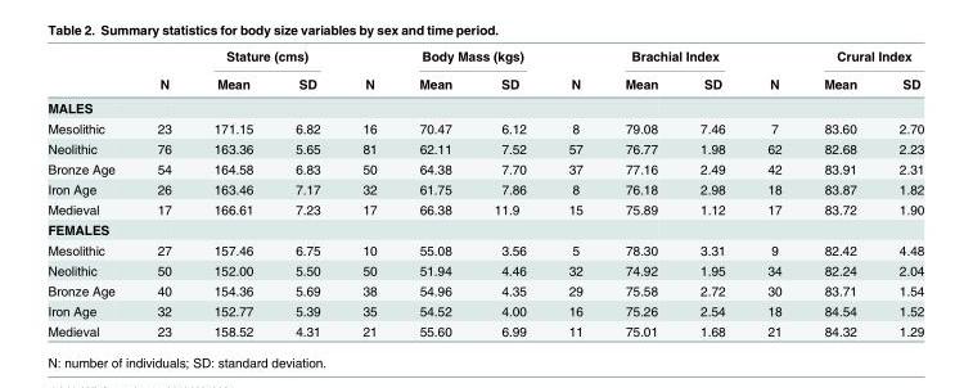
<table><thead><tr><td rowspan="2"></td><td rowspan="2">N</td><td colspan="2">Stature (cms)</td><td rowspan="2">N</td><td colspan="2">Body Mass (kgs)</td><td rowspan="2">N</td><td colspan="2">Brachial Index</td><td rowspan="2">N</td><td colspan="2">Crural Index</td></tr><tr><td>Mean</td><td>SD</td><td>Mean</td><td>SD</td><td>Mean</td><td>SD</td><td>Mean</td><td>SD</td></tr></thead><tbody><tr><td colspan="13">MALES</td></tr><tr><td>Mesolithic</td><td>23</td><td>171.15</td><td>6.82</td><td>16</td><td>70.47</td><td>6.12</td><td>8</td><td>79.08</td><td>7.46</td><td>7</td><td>83.60</td><td>2.70</td></tr><tr><td>Neolithic</td><td>76</td><td>163.36</td><td>5.65</td><td>81</td><td>62.11</td><td>7.52</td><td>57</td><td>76.77</td><td>1.98</td><td>62</td><td>82.68</td><td>2.23</td></tr><tr><td>Bronze Age</td><td>54</td><td>164.58</td><td>6.83</td><td>50</td><td>64.38</td><td>7.70</td><td>37</td><td>77.16</td><td>2.49</td><td>42</td><td>83.91</td><td>2.31</td></tr><tr><td>Iron Age</td><td>26</td><td>163.46</td><td>7.17</td><td>32</td><td>61.75</td><td>7.86</td><td>8</td><td>76.18</td><td>2.98</td><td>18</td><td>83.87</td><td>1.82</td></tr><tr><td>Medieval</td><td>17</td><td>166.61</td><td>7.23</td><td>17</td><td>66.38</td><td>11.9</td><td>15</td><td>75.89</td><td>1.12</td><td>17</td><td>83.72</td><td>1.90</td></tr><tr><td colspan="13">FEMALES</td></tr><tr><td>Mesolithic</td><td>27</td><td>157.46</td><td>6.75</td><td>10</td><td>55.08</td><td>3.56</td><td>5</td><td>78.30</td><td>3.31</td><td>9</td><td>82.42</td><td>4.48</td></tr><tr><td>Neolithic</td><td>50</td><td>152.00</td><td>5.50</td><td>50</td><td>51.94</td><td>4.46</td><td>32</td><td>74.92</td><td>1.95</td><td>34</td><td>82.24</td><td>2.04</td></tr><tr><td>Bronze Age</td><td>40</td><td>154.36</td><td>5.69</td><td>38</td><td>54.96</td><td>4.35</td><td>29</td><td>75.58</td><td>2.72</td><td>30</td><td>83.71</td><td>1.54</td></tr><tr><td>Iron Age</td><td>32</td><td>152.77</td><td>5.39</td><td>35</td><td>54.52</td><td>4.00</td><td>16</td><td>75.26</td><td>2.54</td><td>18</td><td>84.54</td><td>1.52</td></tr><tr><td>Medieval</td><td>23</td><td>158.52</td><td>4.31</td><td>21</td><td>55.60</td><td>6.99</td><td>11</td><td>75.01</td><td>1.68</td><td>21</td><td>84.32</td><td>1.29</td></tr></tbody></table>